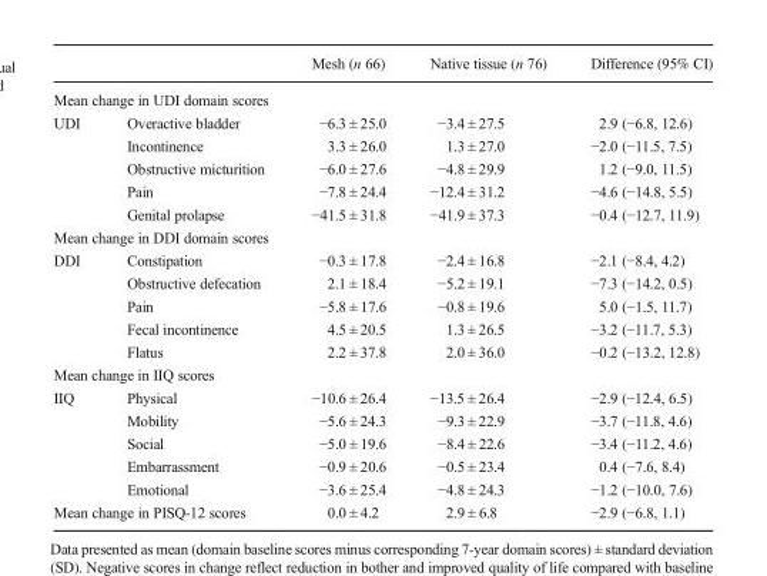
<table><thead><tr><td></td><td></td><td>Mesh (n 66)</td><td>Native tissue (n 76)</td><td>Difference (95% CI)</td></tr></thead><tbody><tr><td colspan="5">Mean change in UDI domain scores</td></tr><tr><td rowspan="5">UDI</td><td>Overactive bladder</td><td>−6.3 ± 25.0</td><td>−3.4 ± 27.5</td><td>2.9 (−6.8, 12.6)</td></tr><tr><td>Incontinence</td><td>3.3 ± 26.0</td><td>1.3 ± 27.0</td><td>−2.0 (−11.5, 7.5)</td></tr><tr><td>Obstructive micturition</td><td>−6.0 ± 27.6</td><td>−4.8 ± 29.9</td><td>1.2 (−9.0, 11.5)</td></tr><tr><td>Pain</td><td>−7.8 ± 24.4</td><td>−12.4 ± 31.2</td><td>−4.6 (−14.8, 5.5)</td></tr><tr><td>Genital prolapse</td><td>−41.5 ± 31.8</td><td>−41.9 ± 37.3</td><td>−0.4 (−12.7, 11.9)</td></tr><tr><td colspan="5">Mean change in DDI domain scores</td></tr><tr><td rowspan="5">DDI</td><td>Constipation</td><td>−0.3 ± 17.8</td><td>−2.4 ± 16.8</td><td>−2.1 (−8.4, 4.2)</td></tr><tr><td>Obstructive defecation</td><td>2.1 ± 18.4</td><td>−5.2 ± 19.1</td><td>−7.3 (−14.2, 0.5)</td></tr><tr><td>Pain</td><td>−5.8 ± 17.6</td><td>−0.8 ± 19.6</td><td>5.0 (−1.5, 11.7)</td></tr><tr><td>Fecal incontinence</td><td>4.5 ± 20.5</td><td>1.3 ± 26.5</td><td>−3.2 (−11.7, 5.3)</td></tr><tr><td>Flatus</td><td>2.2 ± 37.8</td><td>2.0 ± 36.0</td><td>−0.2 (−13.2, 12.8)</td></tr><tr><td colspan="5">Mean change in IIQ scores</td></tr><tr><td rowspan="5">IIQ</td><td>Physical</td><td>−10.6 ± 26.4</td><td>−13.5 ± 26.4</td><td>−2.9 (−12.4, 6.5)</td></tr><tr><td>Mobility</td><td>−5.6 ± 24.3</td><td>−9.3 ± 22.9</td><td>−3.7 (−11.8, 4.6)</td></tr><tr><td>Social</td><td>−5.0 ± 19.6</td><td>−8.4 ± 22.6</td><td>−3.4 (−11.2, 4.6)</td></tr><tr><td>Embarrassment</td><td>−0.9 ± 20.6</td><td>−0.5 ± 23.4</td><td>0.4 (−7.6, 8.4)</td></tr><tr><td>Emotional</td><td>−3.6 ± 25.4</td><td>−4.8 ± 24.3</td><td>−1.2 (−10.0, 7.6)</td></tr><tr><td colspan="2">Mean change in PISQ-12 scores</td><td>0.0 ± 4.2</td><td>2.9 ± 6.8</td><td>−2.9 (−6.8, 1.1)</td></tr></tbody></table>